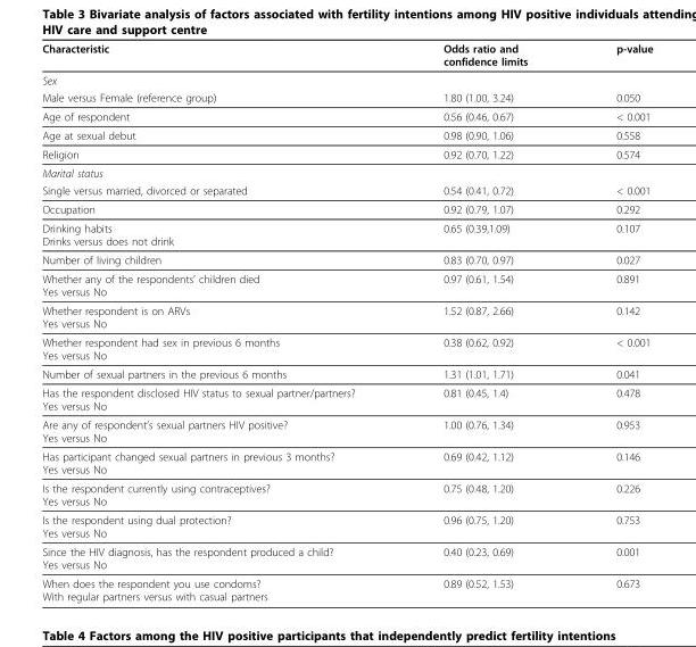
<table><thead><tr><td>Characteristic</td><td>Odds ratio and confidence limits</td><td>p-value</td></tr></thead><tbody><tr><td colspan="3">Sex</td></tr><tr><td>Male versus Female (reference group)</td><td>1.80 (1.00, 3.24)</td><td>0.050</td></tr><tr><td>Age of respondent</td><td>0.56 (0.46, 0.67)</td><td>&lt; 0.001</td></tr><tr><td>Age at sexual debut</td><td>0.98 (0.90, 1.06)</td><td>0.558</td></tr><tr><td>Religion</td><td>0.92 (0.70, 1.22)</td><td>0.574</td></tr><tr><td colspan="3">Marital status</td></tr><tr><td>Single versus married, divorced or separated</td><td>0.54 (0.41, 0.72)</td><td>&lt; 0.001</td></tr><tr><td>Occupation</td><td>0.92 (0.79, 1.07)</td><td>0.292</td></tr><tr><td>Drinking habits Drinks versus does not drink</td><td>0.65 (0.39,1.09)</td><td>0.107</td></tr><tr><td>Number of living children</td><td>0.83 (0.70, 0.97)</td><td>0.027</td></tr><tr><td>Whether any of the respondents’ children died Yes versus No</td><td>0.97 (0.61, 1.54)</td><td>0.891</td></tr><tr><td>Whether respondent is on ARVs Yes versus No</td><td>1.52 (0.87, 2.66)</td><td>0.142</td></tr><tr><td>Whether respondent had sex in previous 6 months Yes versus No</td><td>0.38 (0.62, 0.92)</td><td>&lt; 0.001</td></tr><tr><td>Number of sexual partners in the previous 6 months</td><td>1.31 (1.01, 1.71)</td><td>0.041</td></tr><tr><td>Has the respondent disclosed HIV status to sexual partner/partners? Yes versus No</td><td>0.81 (0.45, 1.4)</td><td>0.478</td></tr><tr><td>Are any of respondent’s sexual partners HIV positive? Yes versus No</td><td>1.00 (0.76, 1.34)</td><td>0.953</td></tr><tr><td>Has participant changed sexual partners in previous 3 months? Yes versus No</td><td>0.69 (0.42, 1.12)</td><td>0.146</td></tr><tr><td>Is the respondent currently using contraceptives? Yes versus No</td><td>0.75 (0.48, 1.20)</td><td>0.226</td></tr><tr><td>Is the respondent using dual protection? Yes versus No</td><td>0.96 (0.75, 1.20)</td><td>0.753</td></tr><tr><td>Since the HIV diagnosis, has the respondent produced a child? Yes versus No</td><td>0.40 (0.23, 0.69)</td><td>0.001</td></tr><tr><td>When does the respondent you use condoms? With regular partners versus with casual partners</td><td>0.89 (0.52, 1.53)</td><td>0.673</td></tr></tbody></table>